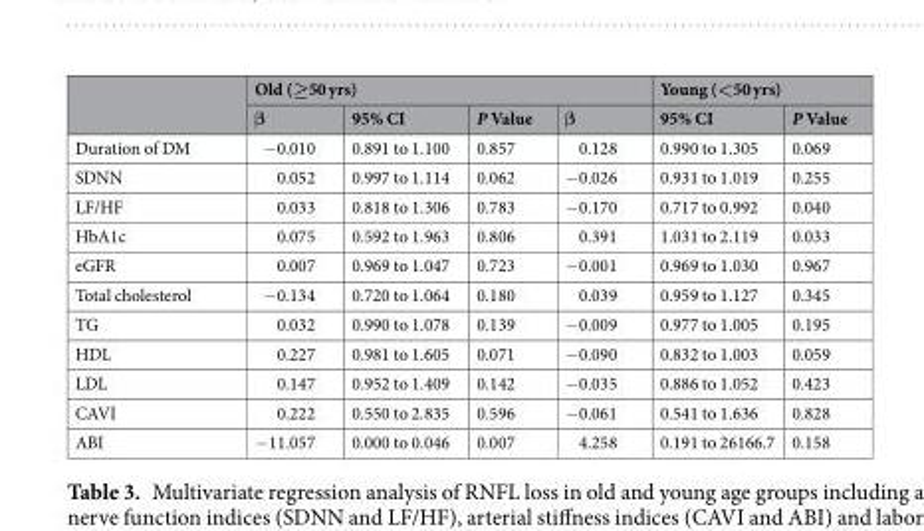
<table><thead><tr><td rowspan="2"></td><td colspan="4">Old (≥50 yrs)</td><td colspan="2">Young (&lt;50 yrs)</td></tr><tr><td>β</td><td>95% CI</td><td>P Value</td><td>β</td><td>95% CI</td><td>P Value</td></tr></thead><tbody><tr><td>Duration of DM</td><td>−0.010</td><td>0.891 to 1.100</td><td>0.857</td><td>0.128</td><td>0.990 to 1.305</td><td>0.069</td></tr><tr><td>SDNN</td><td>0.052</td><td>0.997 to 1.114</td><td>0.062</td><td>−0.026</td><td>0.931 to 1.019</td><td>0.255</td></tr><tr><td>LF/HF</td><td>0.033</td><td>0.818 to 1.306</td><td>0.783</td><td>−0.170</td><td>0.717 to 0.992</td><td>0.040</td></tr><tr><td>HbA1c</td><td>0.075</td><td>0.592 to 1.963</td><td>0.806</td><td>0.391</td><td>1.031 to 2.119</td><td>0.033</td></tr><tr><td>eGFR</td><td>0.007</td><td>0.969 to 1.047</td><td>0.723</td><td>−0.001</td><td>0.969 to 1.030</td><td>0.967</td></tr><tr><td>Total cholesterol</td><td>−0.134</td><td>0.720 to 1.064</td><td>0.180</td><td>0.039</td><td>0.959 to 1.127</td><td>0.345</td></tr><tr><td>TG</td><td>0.032</td><td>0.990 to 1.078</td><td>0.139</td><td>−0.009</td><td>0.977 to 1.005</td><td>0.195</td></tr><tr><td>HDL</td><td>0.227</td><td>0.981 to 1.605</td><td>0.071</td><td>−0.090</td><td>0.832 to 1.003</td><td>0.059</td></tr><tr><td>LDL</td><td>0.147</td><td>0.952 to 1.409</td><td>0.142</td><td>−0.035</td><td>0.886 to 1.052</td><td>0.423</td></tr><tr><td>CAVI</td><td>0.222</td><td>0.550 to 2.835</td><td>0.596</td><td>−0.061</td><td>0.541 to 1.636</td><td>0.828</td></tr><tr><td>ABI</td><td>−11.057</td><td>0.000 to 0.046</td><td>0.007</td><td>4.258</td><td>0.191 to 26166.7</td><td>0.158</td></tr></tbody></table>